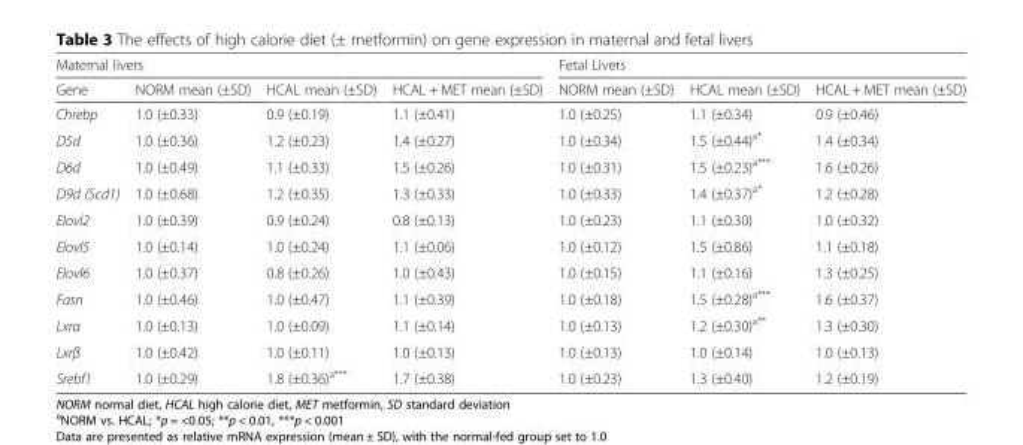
<table><thead><tr><td colspan="4">Maternal livers</td><td colspan="3">Fetal Livers</td></tr><tr><td>Gene</td><td>NORM mean (±SD)</td><td>HCAL mean (±SD)</td><td>HCAL + MET mean (±SD)</td><td>NORM mean (±SD)</td><td>HCAL mean (±SD)</td><td>HCAL + MET mean (±SD)</td></tr></thead><tbody><tr><td>Chrebp</td><td>1.0 (±0.33)</td><td>0.9 (±0.19)</td><td>1.1 (±0.41)</td><td>1.0 (±0.25)</td><td>1.1 (±0.34)</td><td>0.9 (±0.46)</td></tr><tr><td>D5d</td><td>1.0 (±0.36)</td><td>1.2 (±0.23)</td><td>1.4 (±0.27)</td><td>1.0 (±0.34)</td><td>1.5 (±0.44)<sup>a*</sup></td><td>1.4 (±0.34)</td></tr><tr><td>D6d</td><td>1.0 (±0.49)</td><td>1.1 (±0.33)</td><td>1.5 (±0.26)</td><td>1.0 (±0.31)</td><td>1.5 (±0.23)<sup>a***</sup></td><td>1.6 (±0.26)</td></tr><tr><td>D9d (Scd1)</td><td>1.0 (±0.68)</td><td>1.2 (±0.35)</td><td>1.3 (±0.33)</td><td>1.0 (±0.33)</td><td>1.4 (±0.37)<sup>a*</sup></td><td>1.2 (±0.28)</td></tr><tr><td>Elovl2</td><td>1.0 (±0.39)</td><td>0.9 (±0.24)</td><td>0.8 (±0.13)</td><td>1.0 (±0.23)</td><td>1.1 (±0.30)</td><td>1.0 (±0.32)</td></tr><tr><td>Elovl5</td><td>1.0 (±0.14)</td><td>1.0 (±0.24)</td><td>1.1 (±0.06)</td><td>1.0 (±0.12)</td><td>1.5 (±0.86)</td><td>1.1 (±0.18)</td></tr><tr><td>Elovl6</td><td>1.0 (±0.37)</td><td>0.8 (±0.26)</td><td>1.0 (±0.43)</td><td>1.0 (±0.15)</td><td>1.1 (±0.16)</td><td>1.3 (±0.25)</td></tr><tr><td>Fasn</td><td>1.0 (±0.46)</td><td>1.0 (±0.47)</td><td>1.1 (±0.39)</td><td>1.0 (±0.18)</td><td>1.5 (±0.28)<sup>a***</sup></td><td>1.6 (±0.37)</td></tr><tr><td>Lxrα</td><td>1.0 (±0.13)</td><td>1.0 (±0.09)</td><td>1.1 (±0.14)</td><td>1.0 (±0.13)</td><td>1.2 (±0.30)<sup>a**</sup></td><td>1.3 (±0.30)</td></tr><tr><td>Lxrβ</td><td>1.0 (±0.42)</td><td>1.0 (±0.11)</td><td>1.0 (±0.13)</td><td>1.0 (±0.13)</td><td>1.0 (±0.14)</td><td>1.0 (±0.13)</td></tr><tr><td>Srebf1</td><td>1.0 (±0.29)</td><td>1.8 (±0.36)<sup>a***</sup></td><td>1.7 (±0.38)</td><td>1.0 (±0.23)</td><td>1.3 (±0.40)</td><td>1.2 (±0.19)</td></tr></tbody></table>